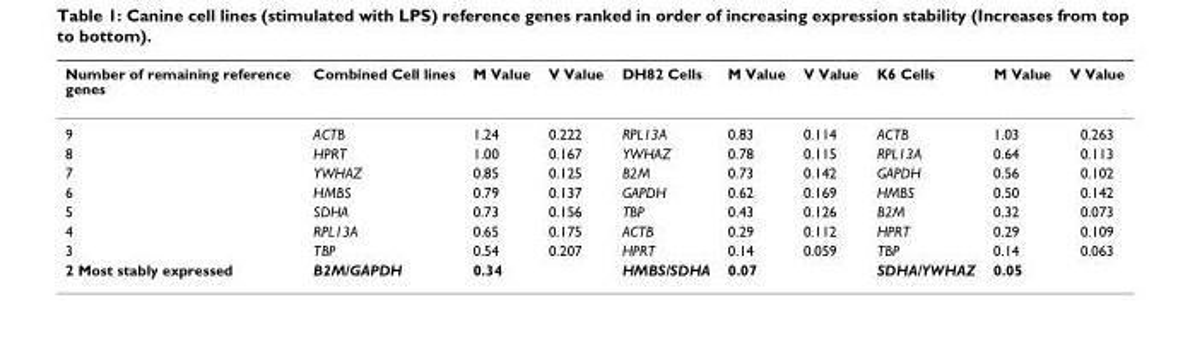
<table><thead><tr><td>Number of remaining reference genes</td><td>Combined Cell lines</td><td>M Value</td><td>V Value</td><td>DH82 Cells</td><td>M Value</td><td>V Value</td><td>K6 Cells</td><td>M Value</td><td>V Value</td></tr></thead><tbody><tr><td>9</td><td>ACTB</td><td>1.24</td><td>0.222</td><td>RPL13A</td><td>0.83</td><td>0.114</td><td>ACTB</td><td>1.03</td><td>0.263</td></tr><tr><td>8</td><td>HPRT</td><td>1.00</td><td>0.167</td><td>YWHAZ</td><td>0.78</td><td>0.115</td><td>RPL13A</td><td>0.64</td><td>0.113</td></tr><tr><td>7</td><td>YWHAZ</td><td>0.85</td><td>0.125</td><td>B2M</td><td>0.73</td><td>0.142</td><td>GAPDH</td><td>0.56</td><td>0.102</td></tr><tr><td>6</td><td>HMBS</td><td>0.79</td><td>0.137</td><td>GAPDH</td><td>0.62</td><td>0.169</td><td>HMBS</td><td>0.50</td><td>0.142</td></tr><tr><td>5</td><td>SDHA</td><td>0.73</td><td>0.156</td><td>TBP</td><td>0.43</td><td>0.126</td><td>B2M</td><td>0.32</td><td>0.073</td></tr><tr><td>4</td><td>RPL13A</td><td>0.65</td><td>0.175</td><td>ACTB</td><td>0.29</td><td>0.112</td><td>HPRT</td><td>0.29</td><td>0.109</td></tr><tr><td>3</td><td>TBP</td><td>0.54</td><td>0.207</td><td>HPRT</td><td>0.14</td><td>0.059</td><td>TBP</td><td>0.14</td><td>0.063</td></tr><tr><td>2 Most stably expressed</td><td>B2M/GAPDH</td><td>0.34</td><td></td><td>HMBS/SDHA</td><td>0.07</td><td></td><td>SDHA/YWHAZ</td><td>0.05</td><td></td></tr></tbody></table>